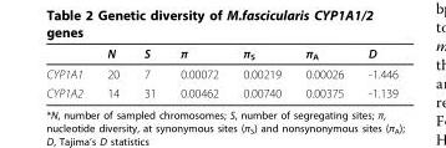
<table><thead><tr><td></td><td>N</td><td>S</td><td>π</td><td>π<sub>S</sub></td><td>π<sub>A</sub></td><td>D</td></tr></thead><tbody><tr><td>CYP1A1</td><td>20</td><td>7</td><td>0.00072</td><td>0.00219</td><td>0.00026</td><td>-1.446</td></tr><tr><td>CYP1A2</td><td>14</td><td>31</td><td>0.00462</td><td>0.00740</td><td>0.00375</td><td>-1.139</td></tr></tbody></table>